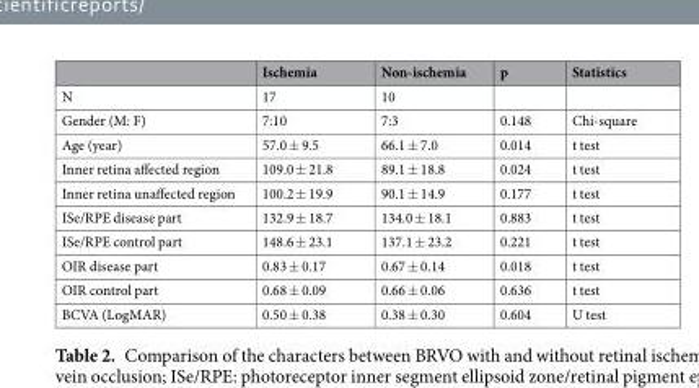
<table><thead><tr><td></td><td>Ischemia</td><td>Non-ischemia</td><td>p</td><td>Statistics</td></tr></thead><tbody><tr><td>N</td><td>17</td><td>10</td><td></td><td></td></tr><tr><td>Gender (M: F)</td><td>7:10</td><td>7:3</td><td>0.148</td><td>Chi-square</td></tr><tr><td>Age (year)</td><td>57.0 ± 9.5</td><td>66.1 ± 7.0</td><td>0.014</td><td>t test</td></tr><tr><td>Inner retina affected region</td><td>109.0 ± 21.8</td><td>89.1 ± 18.8</td><td>0.024</td><td>t test</td></tr><tr><td>Inner retina unaffected region</td><td>100.2 ± 19.9</td><td>90.1 ± 14.9</td><td>0.177</td><td>t test</td></tr><tr><td>ISe/RPE disease part</td><td>132.9 ± 18.7</td><td>134.0 ± 18.1</td><td>0.883</td><td>t test</td></tr><tr><td>ISe/RPE control part</td><td>148.6 ± 23.1</td><td>137.1 ± 23.2</td><td>0.221</td><td>t test</td></tr><tr><td>OIR disease part</td><td>0.83 ± 0.17</td><td>0.67 ± 0.14</td><td>0.018</td><td>t test</td></tr><tr><td>OIR control part</td><td>0.68 ± 0.09</td><td>0.66 ± 0.06</td><td>0.636</td><td>t test</td></tr><tr><td>BCVA (LogMAR)</td><td>0.50 ± 0.38</td><td>0.38 ± 0.30</td><td>0.604</td><td>U test</td></tr></tbody></table>